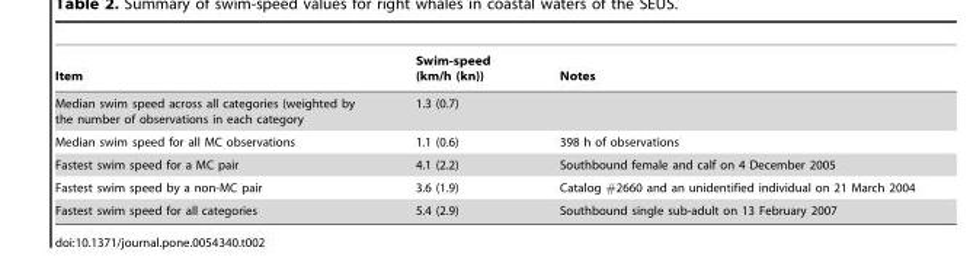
<table><thead><tr><td>Item</td><td>Swim-speed (km/h (kn))</td><td>Notes</td></tr></thead><tbody><tr><td>Median swim speed across all categories (weighted by the number of observations in each category</td><td>1.3 (0.7)</td><td></td></tr><tr><td>Median swim speed for all MC observations</td><td>1.1 (0.6)</td><td>398 h of observations</td></tr><tr><td>Fastest swim speed for a MC pair</td><td>4.1 (2.2)</td><td>Southbound female and calf on 4 December 2005</td></tr><tr><td>Fastest swim speed by a non-MC pair</td><td>3.6 (1.9)</td><td>Catalog #2660 and an unidentified individual on 21 March 2004</td></tr><tr><td>Fastest swim speed for all categories</td><td>5.4 (2.9)</td><td>Southbound single sub-adult on 13 February 2007</td></tr></tbody></table>